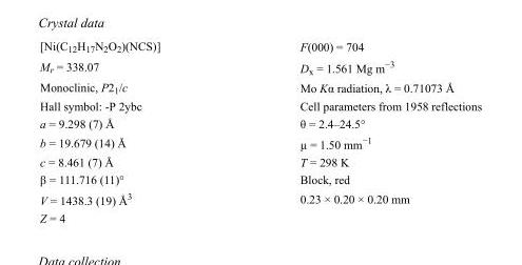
<table><tbody><tr><td>[Ni(C<sub>12</sub>H<sub>17</sub>N<sub>2</sub>O<sub>2</sub>)(NCS)]</td><td>F(000) = 704</td></tr><tr><td>M<sub>r</sub> = 338.07</td><td>D<sub>x</sub> = 1.561 Mg m<sup>−3</sup></td></tr><tr><td>Monoclinic, P2<sub>1</sub>/c</td><td>Mo Kα radiation, λ = 0.71073 Å</td></tr><tr><td>Hall symbol: -P 2ybc</td><td>Cell parameters from 1958 reflections</td></tr><tr><td>a = 9.298 (7) Å</td><td>θ = 2.4–24.5°</td></tr><tr><td>b = 19.679 (14) Å</td><td>µ = 1.50 mm<sup>−1</sup></td></tr><tr><td>c = 8.461 (7) Å</td><td>T = 298 K</td></tr><tr><td>β = 111.716 (11)°</td><td>Block, red</td></tr><tr><td>V = 1438.3 (19) Å<sup>3</sup></td><td>0.23 × 0.20 × 0.20 mm</td></tr><tr><td>Z = 4</td><td></td></tr></tbody></table>